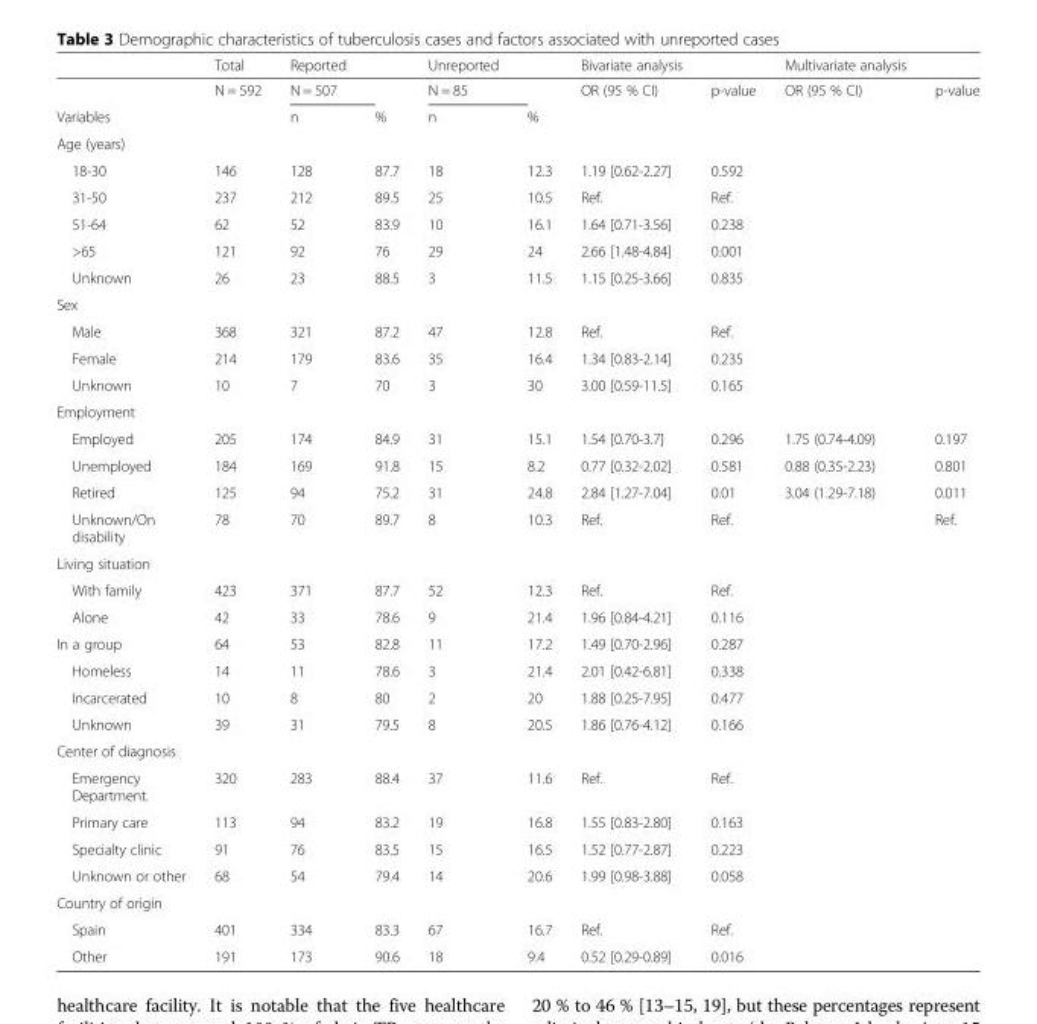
<table><thead><tr><td></td><td>Total</td><td>Reported</td><td></td><td>Unreported</td><td></td><td>Bivariate analysis</td><td></td><td>Multivariate analysis</td><td></td></tr></thead><tbody><tr><td></td><td>N = 592</td><td>N = 507</td><td></td><td>N = 85</td><td></td><td>OR (95 % CI)</td><td>p-value</td><td>OR (95 % CI)</td><td>p-value</td></tr><tr><td>Variables</td><td></td><td>n</td><td>%</td><td>n</td><td>%</td><td></td><td></td><td></td><td></td></tr><tr><td colspan="10">Age (years)</td></tr><tr><td>18-30</td><td>146</td><td>128</td><td>87.7</td><td>18</td><td>12.3</td><td>1.19 [0.62-2.27]</td><td>0.592</td><td></td><td></td></tr><tr><td>31-50</td><td>237</td><td>212</td><td>89.5</td><td>25</td><td>10.5</td><td>Ref.</td><td>Ref.</td><td></td><td></td></tr><tr><td>51-64</td><td>62</td><td>52</td><td>83.9</td><td>10</td><td>16.1</td><td>1.64 [0.71-3.56]</td><td>0.238</td><td></td><td></td></tr><tr><td>&gt;65</td><td>121</td><td>92</td><td>76</td><td>29</td><td>24</td><td>2.66 [1.48-4.84]</td><td>0.001</td><td></td><td></td></tr><tr><td>Unknown</td><td>26</td><td>23</td><td>88.5</td><td>3</td><td>11.5</td><td>1.15 [0.25-3.66]</td><td>0.835</td><td></td><td></td></tr><tr><td colspan="10">Sex</td></tr><tr><td>Male</td><td>368</td><td>321</td><td>87.2</td><td>47</td><td>12.8</td><td>Ref.</td><td>Ref.</td><td></td><td></td></tr><tr><td>Female</td><td>214</td><td>179</td><td>83.6</td><td>35</td><td>16.4</td><td>1.34 [0.83-2.14]</td><td>0.235</td><td></td><td></td></tr><tr><td>Unknown</td><td>10</td><td>7</td><td>70</td><td>3</td><td>30</td><td>3.00 [0.59-11.5]</td><td>0.165</td><td></td><td></td></tr><tr><td colspan="10">Employment</td></tr><tr><td>Employed</td><td>205</td><td>174</td><td>84.9</td><td>31</td><td>15.1</td><td>1.54 [0.70-3.7]</td><td>0.296</td><td>1.75 (0.74-4.09)</td><td>0.197</td></tr><tr><td>Unemployed</td><td>184</td><td>169</td><td>91.8</td><td>15</td><td>8.2</td><td>0.77 [0.32-2.02]</td><td>0.581</td><td>0.88 (0.35-2.23)</td><td>0.801</td></tr><tr><td>Retired</td><td>125</td><td>94</td><td>75.2</td><td>31</td><td>24.8</td><td>2.84 [1.27-7.04]</td><td>0.01</td><td>3.04 (1.29-7.18)</td><td>0.011</td></tr><tr><td>Unknown/On disability</td><td>78</td><td>70</td><td>89.7</td><td>8</td><td>10.3</td><td>Ref.</td><td>Ref.</td><td></td><td>Ref.</td></tr><tr><td colspan="10">Living situation</td></tr><tr><td>With family</td><td>423</td><td>371</td><td>87.7</td><td>52</td><td>12.3</td><td>Ref.</td><td>Ref.</td><td></td><td></td></tr><tr><td>Alone</td><td>42</td><td>33</td><td>78.6</td><td>9</td><td>21.4</td><td>1.96 [0.84-4.21]</td><td>0.116</td><td></td><td></td></tr><tr><td>In a group</td><td>64</td><td>53</td><td>82.8</td><td>11</td><td>17.2</td><td>1.49 [0.70-2.96]</td><td>0.287</td><td></td><td></td></tr><tr><td>Homeless</td><td>14</td><td>11</td><td>78.6</td><td>3</td><td>21.4</td><td>2.01 [0.42-6.81]</td><td>0.338</td><td></td><td></td></tr><tr><td>Incarcerated</td><td>10</td><td>8</td><td>80</td><td>2</td><td>20</td><td>1.88 [0.25-7.95]</td><td>0.477</td><td></td><td></td></tr><tr><td>Unknown</td><td>39</td><td>31</td><td>79.5</td><td>8</td><td>20.5</td><td>1.86 [0.76-4.12]</td><td>0.166</td><td></td><td></td></tr><tr><td colspan="10">Center of diagnosis</td></tr><tr><td>Emergency Department.</td><td>320</td><td>283</td><td>88.4</td><td>37</td><td>11.6</td><td>Ref.</td><td>Ref.</td><td></td><td></td></tr><tr><td>Primary care</td><td>113</td><td>94</td><td>83.2</td><td>19</td><td>16.8</td><td>1.55 [0.83-2.80]</td><td>0.163</td><td></td><td></td></tr><tr><td>Specialty clinic</td><td>91</td><td>76</td><td>83.5</td><td>15</td><td>16.5</td><td>1.52 [0.77-2.87]</td><td>0.223</td><td></td><td></td></tr><tr><td>Unknown or other</td><td>68</td><td>54</td><td>79.4</td><td>14</td><td>20.6</td><td>1.99 [0.98-3.88]</td><td>0.058</td><td></td><td></td></tr><tr><td colspan="10">Country of origin</td></tr><tr><td>Spain</td><td>401</td><td>334</td><td>83.3</td><td>67</td><td>16.7</td><td>Ref.</td><td>Ref.</td><td></td><td></td></tr><tr><td>Other</td><td>191</td><td>173</td><td>90.6</td><td>18</td><td>9.4</td><td>0.52 [0.29-0.89]</td><td>0.016</td><td></td><td></td></tr></tbody></table>